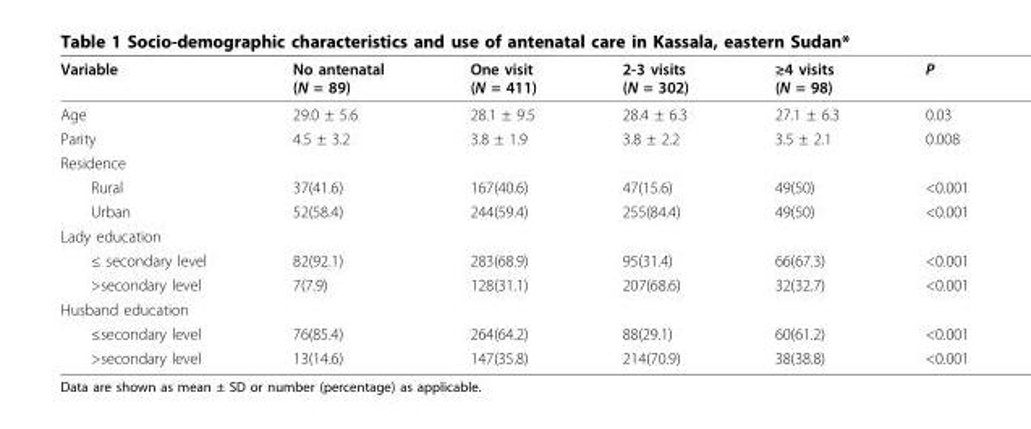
<table><thead><tr><td>Variable</td><td>No antenatal (N = 89)</td><td>One visit (N = 411)</td><td>2-3 visits (N = 302)</td><td>≥4 visits (N = 98)</td><td>P</td></tr></thead><tbody><tr><td>Age</td><td>29.0 ± 5.6</td><td>28.1 ± 9.5</td><td>28.4 ± 6.3</td><td>27.1 ± 6.3</td><td>0.03</td></tr><tr><td>Parity</td><td>4.5 ± 3.2</td><td>3.8 ± 1.9</td><td>3.8 ± 2.2</td><td>3.5 ± 2.1</td><td>0.008</td></tr><tr><td colspan="6">Residence</td></tr><tr><td>Rural</td><td>37(41.6)</td><td>167(40.6)</td><td>47(15.6)</td><td>49(50)</td><td>&lt;0.001</td></tr><tr><td>Urban</td><td>52(58.4)</td><td>244(59.4)</td><td>255(84.4)</td><td>49(50)</td><td>&lt;0.001</td></tr><tr><td colspan="6">Lady education</td></tr><tr><td>≤ secondary level</td><td>82(92.1)</td><td>283(68.9)</td><td>95(31.4)</td><td>66(67.3)</td><td>&lt;0.001</td></tr><tr><td>&gt;secondary level</td><td>7(7.9)</td><td>128(31.1)</td><td>207(68.6)</td><td>32(32.7)</td><td>&lt;0.001</td></tr><tr><td colspan="6">Husband education</td></tr><tr><td>≤secondary level</td><td>76(85.4)</td><td>264(64.2)</td><td>88(29.1)</td><td>60(61.2)</td><td>&lt;0.001</td></tr><tr><td>&gt;secondary level</td><td>13(14.6)</td><td>147(35.8)</td><td>214(70.9)</td><td>38(38.8)</td><td>&lt;0.001</td></tr></tbody></table>